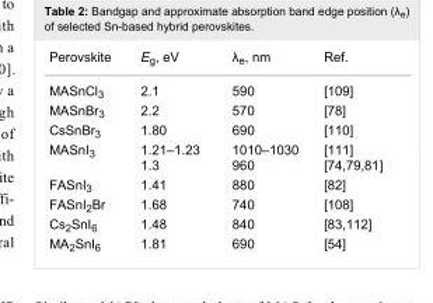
<table><tbody><tr><td>Perovskite</td><td>E<sub>g</sub>, eV</td><td>λ<sub>e</sub>, nm</td><td>Ref.</td></tr><tr><td>MASnCl<sub>3</sub></td><td>2.1</td><td>590</td><td>[109]</td></tr><tr><td>MASnBr<sub>3</sub></td><td>2.2</td><td>570</td><td>[78]</td></tr><tr><td>CsSnBr<sub>3</sub></td><td>1.80</td><td>690</td><td>[110]</td></tr><tr><td>MASnI<sub>3</sub></td><td>1.21–1.23 1.3</td><td>1010–1030 960</td><td>[111] [74,79,81]</td></tr><tr><td>FASnI<sub>3</sub></td><td>1.41</td><td>880</td><td>[82]</td></tr><tr><td>FASnI<sub>2</sub>Br</td><td>1.68</td><td>740</td><td>[108]</td></tr><tr><td>Cs<sub>2</sub>SnI<sub>6</sub></td><td>1.48</td><td>840</td><td>[83,112]</td></tr><tr><td>MA<sub>2</sub>SnI<sub>6</sub></td><td>1.81</td><td>690</td><td>[54]</td></tr></tbody></table>